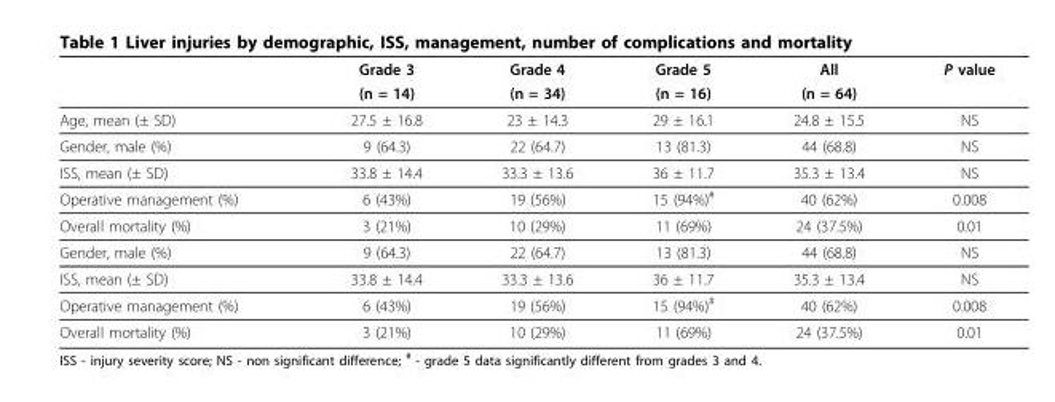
<table><thead><tr><td rowspan="2"></td><td rowspan="2">Grade 3 (n = 14)</td><td rowspan="2">Grade 4 (n = 34)</td><td rowspan="2">Grade 5 (n = 16)</td><td rowspan="2">All (n = 64)</td><td rowspan="2">P value</td></tr><tr></tr></thead><tbody><tr><td>Age, mean (± SD)</td><td>27.5 ± 16.8</td><td>23 ± 14.3</td><td>29 ± 16.1</td><td>24.8 ± 15.5</td><td>NS</td></tr><tr><td>Gender, male (%)</td><td>9 (64.3)</td><td>22 (64.7)</td><td>13 (81.3)</td><td>44 (68.8)</td><td>NS</td></tr><tr><td>ISS, mean (± SD)</td><td>33.8 ± 14.4</td><td>33.3 ± 13.6</td><td>36 ± 11.7</td><td>35.3 ± 13.4</td><td>NS</td></tr><tr><td>Operative management (%)</td><td>6 (43%)</td><td>19 (56%)</td><td>15 (94%)<sup>#</sup></td><td>40 (62%)</td><td>0.008</td></tr><tr><td>Overall mortality (%)</td><td>3 (21%)</td><td>10 (29%)</td><td>11 (69%)</td><td>24 (37.5%)</td><td>0.01</td></tr><tr><td>Gender, male (%)</td><td>9 (64.3)</td><td>22 (64.7)</td><td>13 (81.3)</td><td>44 (68.8)</td><td>NS</td></tr><tr><td>ISS, mean (± SD)</td><td>33.8 ± 14.4</td><td>33.3 ± 13.6</td><td>36 ± 11.7</td><td>35.3 ± 13.4</td><td>NS</td></tr><tr><td>Operative management (%)</td><td>6 (43%)</td><td>19 (56%)</td><td>15 (94%)<sup>#</sup></td><td>40 (62%)</td><td>0.008</td></tr><tr><td>Overall mortality (%)</td><td>3 (21%)</td><td>10 (29%)</td><td>11 (69%)</td><td>24 (37.5%)</td><td>0.01</td></tr></tbody></table>